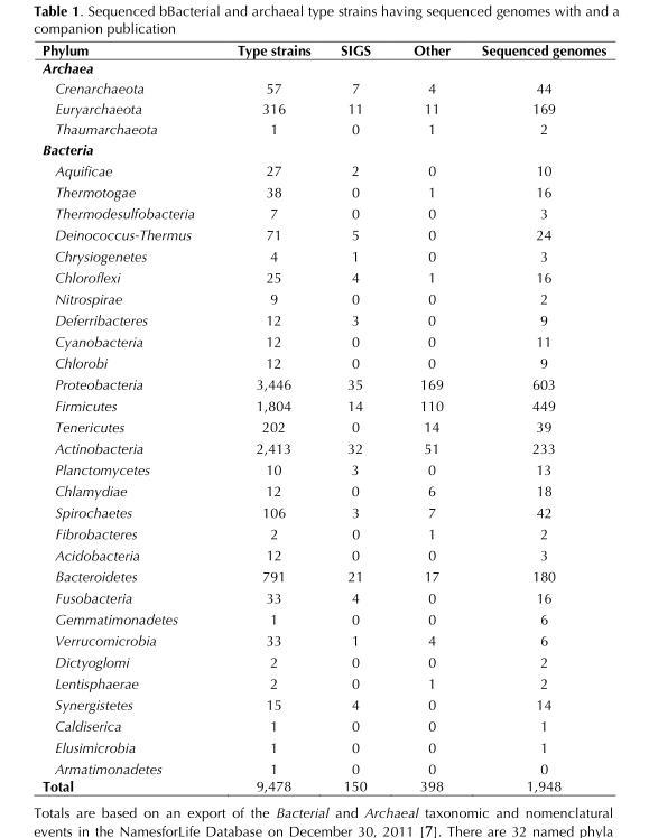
<table><thead><tr><td>Phylum</td><td>Type strains</td><td>SIGS</td><td>Other</td><td>Sequenced genomes</td></tr></thead><tbody><tr><td colspan="5">Archaea</td></tr><tr><td>Crenarchaeota</td><td>57</td><td>7</td><td>4</td><td>44</td></tr><tr><td>Euryarchaeota</td><td>316</td><td>11</td><td>11</td><td>169</td></tr><tr><td>Thaumarchaeota</td><td>1</td><td>0</td><td>1</td><td>2</td></tr><tr><td colspan="5">Bacteria</td></tr><tr><td>Aquificae</td><td>27</td><td>2</td><td>0</td><td>10</td></tr><tr><td>Thermotogae</td><td>38</td><td>0</td><td>1</td><td>16</td></tr><tr><td>Thermodesulfobacteria</td><td>7</td><td>0</td><td>0</td><td>3</td></tr><tr><td>Deinococcus-Thermus</td><td>71</td><td>5</td><td>0</td><td>24</td></tr><tr><td>Chrysiogenetes</td><td>4</td><td>1</td><td>0</td><td>3</td></tr><tr><td>Chloroflexi</td><td>25</td><td>4</td><td>1</td><td>16</td></tr><tr><td>Nitrospirae</td><td>9</td><td>0</td><td>0</td><td>2</td></tr><tr><td>Deferribacteres</td><td>12</td><td>3</td><td>0</td><td>9</td></tr><tr><td>Cyanobacteria</td><td>12</td><td>0</td><td>0</td><td>11</td></tr><tr><td>Chlorobi</td><td>12</td><td>0</td><td>0</td><td>9</td></tr><tr><td>Proteobacteria</td><td>3,446</td><td>35</td><td>169</td><td>603</td></tr><tr><td>Firmicutes</td><td>1,804</td><td>14</td><td>110</td><td>449</td></tr><tr><td>Tenericutes</td><td>202</td><td>0</td><td>14</td><td>39</td></tr><tr><td>Actinobacteria</td><td>2,413</td><td>32</td><td>51</td><td>233</td></tr><tr><td>Planctomycetes</td><td>10</td><td>3</td><td>0</td><td>13</td></tr><tr><td>Chlamydiae</td><td>12</td><td>0</td><td>6</td><td>18</td></tr><tr><td>Spirochaetes</td><td>106</td><td>3</td><td>7</td><td>42</td></tr><tr><td>Fibrobacteres</td><td>2</td><td>0</td><td>1</td><td>2</td></tr><tr><td>Acidobacteria</td><td>12</td><td>0</td><td>0</td><td>3</td></tr><tr><td>Bacteroidetes</td><td>791</td><td>21</td><td>17</td><td>180</td></tr><tr><td>Fusobacteria</td><td>33</td><td>4</td><td>0</td><td>16</td></tr><tr><td>Gemmatimonadetes</td><td>1</td><td>0</td><td>0</td><td>6</td></tr><tr><td>Verrucomicrobia</td><td>33</td><td>1</td><td>4</td><td>6</td></tr><tr><td>Dictyoglomi</td><td>2</td><td>0</td><td>0</td><td>2</td></tr><tr><td>Lentisphaerae</td><td>2</td><td>0</td><td>1</td><td>2</td></tr><tr><td>Synergistetes</td><td>15</td><td>4</td><td>0</td><td>14</td></tr><tr><td>Caldiserica</td><td>1</td><td>0</td><td>0</td><td>1</td></tr><tr><td>Elusimicrobia</td><td>1</td><td>0</td><td>0</td><td>1</td></tr><tr><td>Armatimonadetes</td><td>1</td><td>0</td><td>0</td><td>0</td></tr><tr><td>Total</td><td>9,478</td><td>150</td><td>398</td><td>1,948</td></tr></tbody></table>